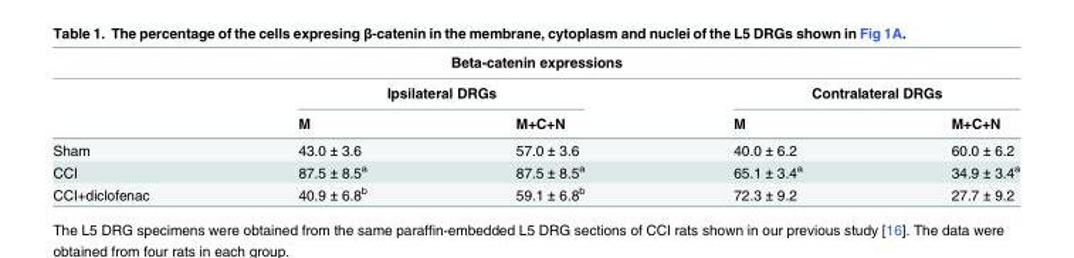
<table><thead><tr><td colspan="5">Beta-catenin expressions</td></tr><tr><td rowspan="2"></td><td colspan="2">Ipsilateral DRGs</td><td colspan="2">Contralateral DRGs</td></tr><tr><td>M</td><td>M+C+N</td><td>M</td><td>M+C+N</td></tr></thead><tbody><tr><td>Sham</td><td>43.0 ± 3.6</td><td>57.0 ± 3.6</td><td>40.0 ± 6.2</td><td>60.0 ± 6.2</td></tr><tr><td>CCI</td><td>87.5 ± 8.5<sup>a</sup></td><td>87.5 ± 8.5<sup>a</sup></td><td>65.1 ± 3.4<sup>a</sup></td><td>34.9 ± 3.4<sup>a</sup></td></tr><tr><td>CCI+diclofenac</td><td>40.9 ± 6.8<sup>b</sup></td><td>59.1 ± 6.8<sup>b</sup></td><td>72.3 ± 9.2</td><td>27.7 ± 9.2</td></tr></tbody></table>